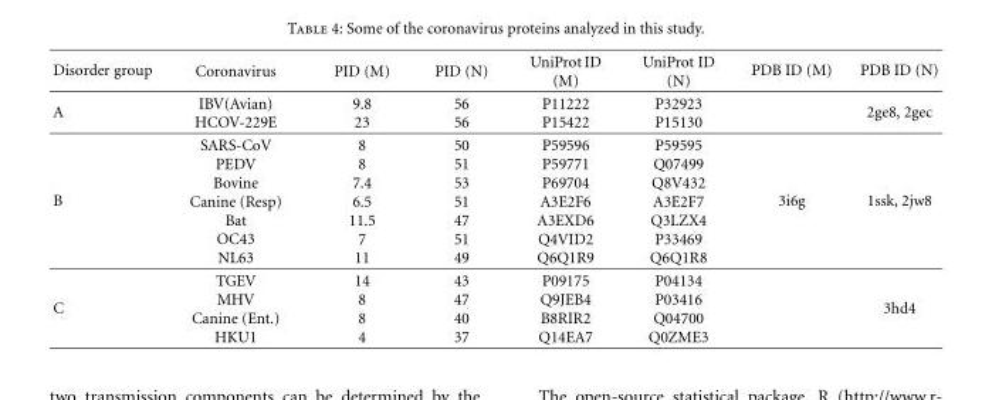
<table><thead><tr><td>Disorder group</td><td>Coronavirus</td><td>PID (M)</td><td>PID (N)</td><td>UniProt ID (M)</td><td>UniProt ID (N)</td><td>PDB ID (M)</td><td>PDB ID (N)</td></tr></thead><tbody><tr><td>A</td><td>IBV(Avian) HCOV-229E</td><td>9.8 23</td><td>56 56</td><td>P11222 P15422</td><td>P32923 P15130</td><td></td><td>2ge8, 2gec</td></tr><tr><td>B</td><td>SARS-CoV PEDV Bovine Canine (Resp) Bat OC43 NL63</td><td>8 8 7.4 6.5 11.5 7 11</td><td>50 51 53 51 47 51 49</td><td>P59596 P59771 P69704 A3E2F6 A3EXD6 Q4VID2 Q6Q1R9</td><td>P59595 Q07499 Q8V432 A3E2F7 Q3LZX4 P33469 Q6Q1R8</td><td>3i6g</td><td>1ssk, 2jw8</td></tr><tr><td>C</td><td>TGEV MHV Canine (Ent.) HKU1</td><td>14 8 8 4</td><td>43 47 40 37</td><td>P09175 Q9JEB4 B8RIR2 Q14EA7</td><td>P04134 P03416 Q04700 Q0ZME3</td><td></td><td>3hd4</td></tr></tbody></table>